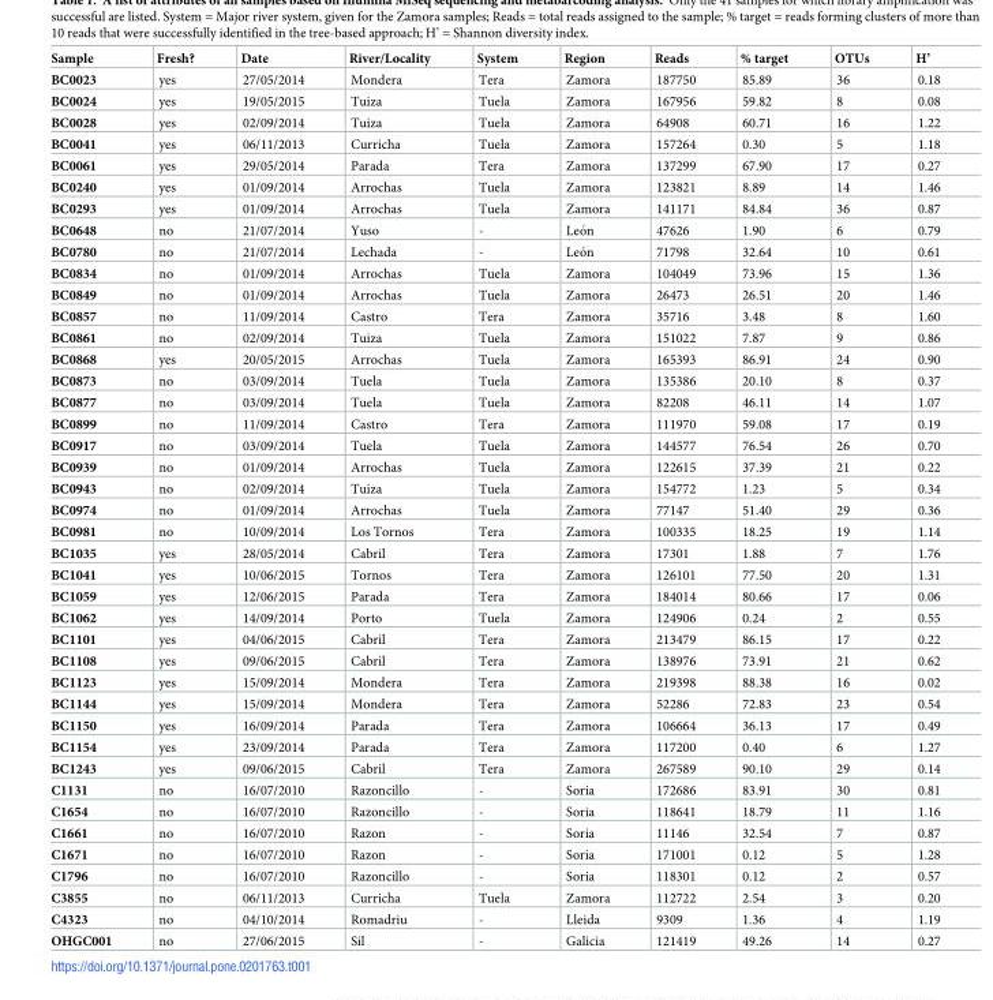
<table><thead><tr><td>Sample</td><td>Fresh?</td><td>Date</td><td>River/Locality</td><td>System</td><td>Region</td><td>Reads</td><td>% target</td><td>OTUs</td><td>H’</td></tr></thead><tbody><tr><td>BC0023</td><td>yes</td><td>27/05/2014</td><td>Mondera</td><td>Tera</td><td>Zamora</td><td>187750</td><td>85.89</td><td>36</td><td>0.18</td></tr><tr><td>BC0024</td><td>yes</td><td>19/05/2015</td><td>Tuiza</td><td>Tuela</td><td>Zamora</td><td>167956</td><td>59.82</td><td>8</td><td>0.08</td></tr><tr><td>BC0028</td><td>yes</td><td>02/09/2014</td><td>Tuiza</td><td>Tuela</td><td>Zamora</td><td>64908</td><td>60.71</td><td>16</td><td>1.22</td></tr><tr><td>BC0041</td><td>yes</td><td>06/11/2013</td><td>Curricha</td><td>Tuela</td><td>Zamora</td><td>157264</td><td>0.30</td><td>5</td><td>1.18</td></tr><tr><td>BC0061</td><td>yes</td><td>29/05/2014</td><td>Parada</td><td>Tera</td><td>Zamora</td><td>137299</td><td>67.90</td><td>17</td><td>0.27</td></tr><tr><td>BC0240</td><td>yes</td><td>01/09/2014</td><td>Arrochas</td><td>Tuela</td><td>Zamora</td><td>123821</td><td>8.89</td><td>14</td><td>1.46</td></tr><tr><td>BC0293</td><td>yes</td><td>01/09/2014</td><td>Arrochas</td><td>Tuela</td><td>Zamora</td><td>141171</td><td>84.84</td><td>36</td><td>0.87</td></tr><tr><td>BC0648</td><td>no</td><td>21/07/2014</td><td>Yuso</td><td>-</td><td>Leo´n</td><td>47626</td><td>1.90</td><td>6</td><td>0.79</td></tr><tr><td>BC0780</td><td>no</td><td>21/07/2014</td><td>Lechada</td><td>-</td><td>Leo´n</td><td>71798</td><td>32.64</td><td>10</td><td>0.61</td></tr><tr><td>BC0834</td><td>no</td><td>01/09/2014</td><td>Arrochas</td><td>Tuela</td><td>Zamora</td><td>104049</td><td>73.96</td><td>15</td><td>1.36</td></tr><tr><td>BC0849</td><td>no</td><td>01/09/2014</td><td>Arrochas</td><td>Tuela</td><td>Zamora</td><td>26473</td><td>26.51</td><td>20</td><td>1.46</td></tr><tr><td>BC0857</td><td>no</td><td>11/09/2014</td><td>Castro</td><td>Tera</td><td>Zamora</td><td>35716</td><td>3.48</td><td>8</td><td>1.60</td></tr><tr><td>BC0861</td><td>no</td><td>02/09/2014</td><td>Tuiza</td><td>Tuela</td><td>Zamora</td><td>151022</td><td>7.87</td><td>9</td><td>0.86</td></tr><tr><td>BC0868</td><td>yes</td><td>20/05/2015</td><td>Arrochas</td><td>Tuela</td><td>Zamora</td><td>165393</td><td>86.91</td><td>24</td><td>0.90</td></tr><tr><td>BC0873</td><td>no</td><td>03/09/2014</td><td>Tuela</td><td>Tuela</td><td>Zamora</td><td>135386</td><td>20.10</td><td>8</td><td>0.37</td></tr><tr><td>BC0877</td><td>no</td><td>03/09/2014</td><td>Tuela</td><td>Tuela</td><td>Zamora</td><td>82208</td><td>46.11</td><td>14</td><td>1.07</td></tr><tr><td>BC0899</td><td>no</td><td>11/09/2014</td><td>Castro</td><td>Tera</td><td>Zamora</td><td>111970</td><td>59.08</td><td>17</td><td>0.19</td></tr><tr><td>BC0917</td><td>no</td><td>03/09/2014</td><td>Tuela</td><td>Tuela</td><td>Zamora</td><td>144577</td><td>76.54</td><td>26</td><td>0.70</td></tr><tr><td>BC0939</td><td>no</td><td>01/09/2014</td><td>Arrochas</td><td>Tuela</td><td>Zamora</td><td>122615</td><td>37.39</td><td>21</td><td>0.22</td></tr><tr><td>BC0943</td><td>no</td><td>02/09/2014</td><td>Tuiza</td><td>Tuela</td><td>Zamora</td><td>154772</td><td>1.23</td><td>5</td><td>0.34</td></tr><tr><td>BC0974</td><td>no</td><td>01/09/2014</td><td>Arrochas</td><td>Tuela</td><td>Zamora</td><td>77147</td><td>51.40</td><td>29</td><td>0.36</td></tr><tr><td>BC0981</td><td>no</td><td>10/09/2014</td><td>Los Tornos</td><td>Tera</td><td>Zamora</td><td>100335</td><td>18.25</td><td>19</td><td>1.14</td></tr><tr><td>BC1035</td><td>yes</td><td>28/05/2014</td><td>Cabril</td><td>Tera</td><td>Zamora</td><td>17301</td><td>1.88</td><td>7</td><td>1.76</td></tr><tr><td>BC1041</td><td>yes</td><td>10/06/2015</td><td>Tornos</td><td>Tera</td><td>Zamora</td><td>126101</td><td>77.50</td><td>20</td><td>1.31</td></tr><tr><td>BC1059</td><td>yes</td><td>12/06/2015</td><td>Parada</td><td>Tera</td><td>Zamora</td><td>184014</td><td>80.66</td><td>17</td><td>0.06</td></tr><tr><td>BC1062</td><td>yes</td><td>14/09/2014</td><td>Porto</td><td>Tuela</td><td>Zamora</td><td>124906</td><td>0.24</td><td>2</td><td>0.55</td></tr><tr><td>BC1101</td><td>yes</td><td>04/06/2015</td><td>Cabril</td><td>Tera</td><td>Zamora</td><td>213479</td><td>86.15</td><td>17</td><td>0.22</td></tr><tr><td>BC1108</td><td>yes</td><td>09/06/2015</td><td>Cabril</td><td>Tera</td><td>Zamora</td><td>138976</td><td>73.91</td><td>21</td><td>0.62</td></tr><tr><td>BC1123</td><td>yes</td><td>15/09/2014</td><td>Mondera</td><td>Tera</td><td>Zamora</td><td>219398</td><td>88.38</td><td>16</td><td>0.02</td></tr><tr><td>BC1144</td><td>yes</td><td>15/09/2014</td><td>Mondera</td><td>Tera</td><td>Zamora</td><td>52286</td><td>72.83</td><td>23</td><td>0.54</td></tr><tr><td>BC1150</td><td>yes</td><td>16/09/2014</td><td>Parada</td><td>Tera</td><td>Zamora</td><td>106664</td><td>36.13</td><td>17</td><td>0.49</td></tr><tr><td>BC1154</td><td>yes</td><td>23/09/2014</td><td>Parada</td><td>Tera</td><td>Zamora</td><td>117200</td><td>0.40</td><td>6</td><td>1.27</td></tr><tr><td>BC1243</td><td>yes</td><td>09/06/2015</td><td>Cabril</td><td>Tera</td><td>Zamora</td><td>267589</td><td>90.10</td><td>29</td><td>0.14</td></tr><tr><td>C1131</td><td>no</td><td>16/07/2010</td><td>Razoncillo</td><td>-</td><td>Soria</td><td>172686</td><td>83.91</td><td>30</td><td>0.81</td></tr><tr><td>C1654</td><td>no</td><td>16/07/2010</td><td>Razoncillo</td><td>-</td><td>Soria</td><td>118641</td><td>18.79</td><td>11</td><td>1.16</td></tr><tr><td>C1661</td><td>no</td><td>16/07/2010</td><td>Razon</td><td>-</td><td>Soria</td><td>11146</td><td>32.54</td><td>7</td><td>0.87</td></tr><tr><td>C1671</td><td>no</td><td>16/07/2010</td><td>Razon</td><td>-</td><td>Soria</td><td>171001</td><td>0.12</td><td>5</td><td>1.28</td></tr><tr><td>C1796</td><td>no</td><td>16/07/2010</td><td>Razoncillo</td><td>-</td><td>Soria</td><td>118301</td><td>0.12</td><td>2</td><td>0.57</td></tr><tr><td>C3855</td><td>no</td><td>06/11/2013</td><td>Curricha</td><td>Tuela</td><td>Zamora</td><td>112722</td><td>2.54</td><td>3</td><td>0.20</td></tr><tr><td>C4323</td><td>no</td><td>04/10/2014</td><td>Romadriu</td><td>-</td><td>Lleida</td><td>9309</td><td>1.36</td><td>4</td><td>1.19</td></tr><tr><td>OHGC001</td><td>no</td><td>27/06/2015</td><td>Sil</td><td>-</td><td>Galicia</td><td>121419</td><td>49.26</td><td>14</td><td>0.27</td></tr></tbody></table>